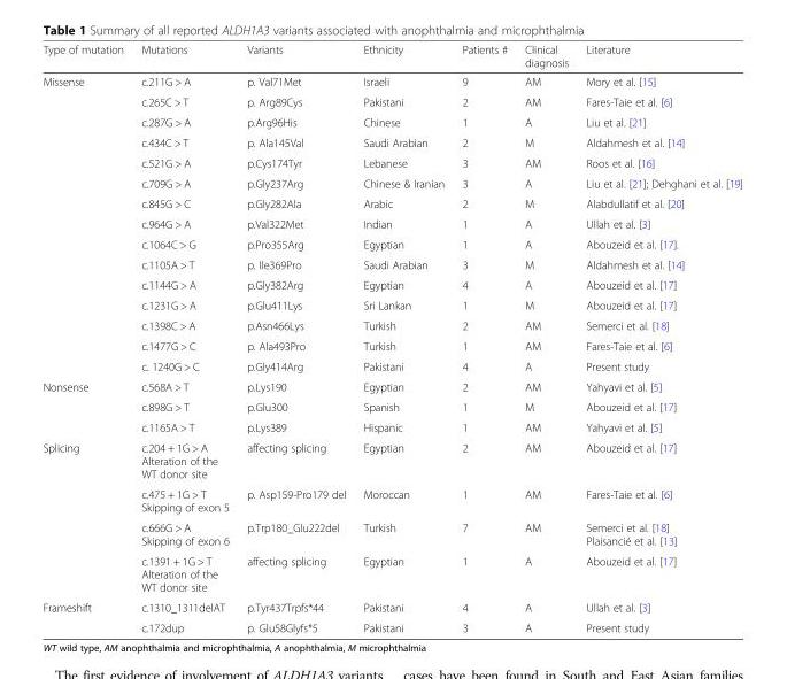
<table><thead><tr><td>Type of mutation</td><td>Mutations</td><td>Variants</td><td>Ethnicity</td><td>Patients #</td><td>Clinical diagnosis</td><td>Literature</td></tr></thead><tbody><tr><td rowspan="15">Missense</td><td>c.211G &gt; A</td><td>p. Val71Met</td><td>Israeli</td><td>9</td><td>AM</td><td>Mory et al. [15]</td></tr><tr><td>c.265C &gt; T</td><td>p. Arg89Cys</td><td>Pakistani</td><td>2</td><td>AM</td><td>Fares-Taie et al. [6]</td></tr><tr><td>c.287G &gt; A</td><td>p.Arg96His</td><td>Chinese</td><td>1</td><td>A</td><td>Liu et al. [21]</td></tr><tr><td>c.434C &gt; T</td><td>p. Ala145Val</td><td>Saudi Arabian</td><td>2</td><td>M</td><td>Aldahmesh et al. [14]</td></tr><tr><td>c.521G &gt; A</td><td>p.Cys174Tyr</td><td>Lebanese</td><td>3</td><td>AM</td><td>Roos et al. [16]</td></tr><tr><td>c.709G &gt; A</td><td>p.Gly237Arg</td><td>Chinese &amp; Iranian</td><td>3</td><td>A</td><td>Liu et al. [21]; Dehghani et al. [19]</td></tr><tr><td>c.845G &gt; C</td><td>p.Gly282Ala</td><td>Arabic</td><td>2</td><td>M</td><td>Alabdullatif et al. [20]</td></tr><tr><td>c.964G &gt; A</td><td>p.Val322Met</td><td>Indian</td><td>1</td><td>A</td><td>Ullah et al. [3]</td></tr><tr><td>c.1064C &gt; G</td><td>p.Pro355Arg</td><td>Egyptian</td><td>1</td><td>A</td><td>Abouzeid et al. [17].</td></tr><tr><td>c.1105A &gt; T</td><td>p. Ile369Pro</td><td>Saudi Arabian</td><td>3</td><td>M</td><td>Aldahmesh et al. [14]</td></tr><tr><td>c.1144G &gt; A</td><td>p.Gly382Arg</td><td>Egyptian</td><td>4</td><td>A</td><td>Abouzeid et al. [17]</td></tr><tr><td>c.1231G &gt; A</td><td>p.Glu411Lys</td><td>Sri Lankan</td><td>1</td><td>M</td><td>Abouzeid et al. [17]</td></tr><tr><td>c.1398C &gt; A</td><td>p.Asn466Lys</td><td>Turkish</td><td>2</td><td>AM</td><td>Semerci et al. [18]</td></tr><tr><td>c.1477G &gt; C</td><td>p. Ala493Pro</td><td>Turkish</td><td>1</td><td>AM</td><td>Fares-Taie et al. [6]</td></tr><tr><td>c. 1240G &gt; C</td><td>p.Gly414Arg</td><td>Pakistani</td><td>4</td><td>A</td><td>Present study</td></tr><tr><td rowspan="3">Nonsense</td><td>c.568A &gt; T</td><td>p.Lys190</td><td>Egyptian</td><td>2</td><td>AM</td><td>Yahyavi et al. [5]</td></tr><tr><td>c.898G &gt; T</td><td>p.Glu300</td><td>Spanish</td><td>1</td><td>M</td><td>Abouzeid et al. [17]</td></tr><tr><td>c.1165A &gt; T</td><td>p.Lys389</td><td>Hispanic</td><td>1</td><td>AM</td><td>Yahyavi et al. [5]</td></tr><tr><td rowspan="4">Splicing</td><td>c.204 + 1G &gt; A Alteration of the WT donor site</td><td>affecting splicing</td><td>Egyptian</td><td>2</td><td>AM</td><td>Abouzeid et al. [17]</td></tr><tr><td>c.475 + 1G &gt; T Skipping of exon 5</td><td>p. Asp159-Pro179 del</td><td>Moroccan</td><td>1</td><td>AM</td><td>Fares-Taie et al. [6]</td></tr><tr><td>c.666G &gt; A Skipping of exon 6</td><td>p.Trp180_Glu222del</td><td>Turkish</td><td>7</td><td>AM</td><td>Semerci et al. [18] Plaisancié et al. [13]</td></tr><tr><td>c.1391 + 1G &gt; T Alteration of the WT donor site</td><td>affecting splicing</td><td>Egyptian</td><td>1</td><td>A</td><td>Abouzeid et al. [17]</td></tr><tr><td rowspan="2">Frameshift</td><td>c.1310_1311delAT</td><td>p.Tyr437Trpfs*44</td><td>Pakistani</td><td>4</td><td>A</td><td>Ullah et al. [3]</td></tr><tr><td>c.172dup</td><td>p. Glu58Glyfs*5</td><td>Pakistani</td><td>3</td><td>A</td><td>Present study</td></tr></tbody></table>